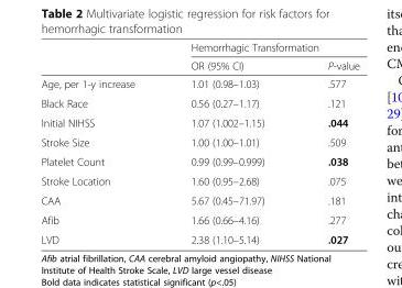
<table><thead><tr><td rowspan="2"></td><td colspan="2">Hemorrhagic Transformation</td></tr><tr><td>OR (95% CI)</td><td>P-value</td></tr></thead><tbody><tr><td>Age, per 1-y increase</td><td>1.01 (0.98–1.03)</td><td>.577</td></tr><tr><td>Black Race</td><td>0.56 (0.27–1.17)</td><td>.121</td></tr><tr><td>Initial NIHSS</td><td>1.07 (1.002–1.15)</td><td>.044</td></tr><tr><td>Stroke Size</td><td>1.00 (1.00–1.01)</td><td>.509</td></tr><tr><td>Platelet Count</td><td>0.99 (0.99–0.999)</td><td>.038</td></tr><tr><td>Stroke Location</td><td>1.60 (0.95–2.68)</td><td>.075</td></tr><tr><td>CAA</td><td>5.67 (0.45–71.97)</td><td>.181</td></tr><tr><td>Afib</td><td>1.66 (0.66–4.16)</td><td>.277</td></tr><tr><td>LVD</td><td>2.38 (1.10–5.14)</td><td>.027</td></tr></tbody></table>